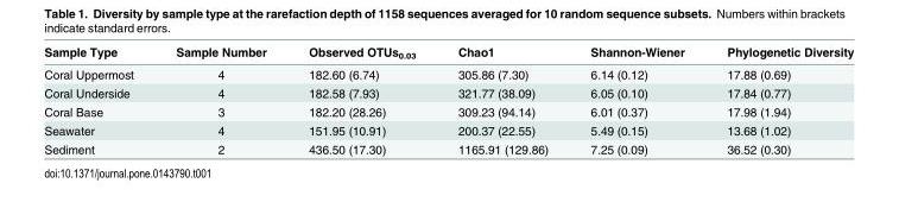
<table><thead><tr><td>Sample Type</td><td>Sample Number</td><td>Observed OTUs<sub>0.03</sub></td><td>Chao1</td><td>Shannon-Wiener</td><td>Phylogenetic Diversity</td></tr></thead><tbody><tr><td>Coral Uppermost</td><td>4</td><td>182.60 (6.74)</td><td>305.86 (7.30)</td><td>6.14 (0.12)</td><td>17.88 (0.69)</td></tr><tr><td>Coral Underside</td><td>4</td><td>182.58 (7.93)</td><td>321.77 (38.09)</td><td>6.05 (0.10)</td><td>17.84 (0.77)</td></tr><tr><td>Coral Base</td><td>3</td><td>182.20 (28.26)</td><td>309.23 (94.14)</td><td>6.01 (0.37)</td><td>17.98 (1.94)</td></tr><tr><td>Seawater</td><td>4</td><td>151.95 (10.91)</td><td>200.37 (22.55)</td><td>5.49 (0.15)</td><td>13.68 (1.02)</td></tr><tr><td>Sediment</td><td>2</td><td>436.50 (17.30)</td><td>1165.91 (129.86)</td><td>7.25 (0.09)</td><td>36.52 (0.30)</td></tr></tbody></table>